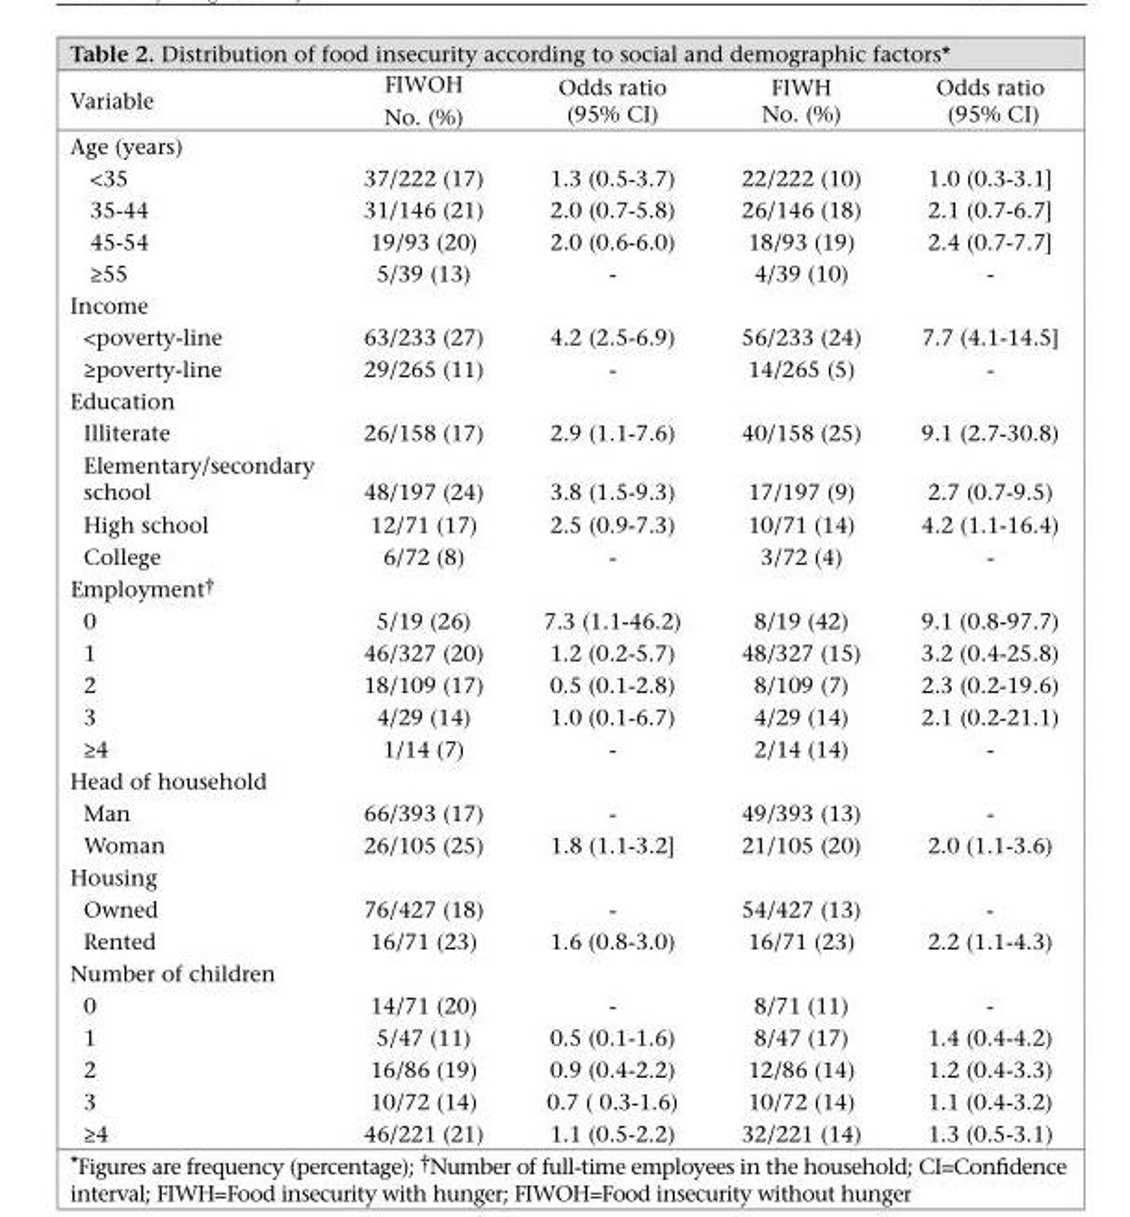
<table><thead><tr><td>Variable</td><td>FIWOH No. (%)</td><td>Odds ratio (95% CI)</td><td>FIWH No. (%)</td><td>Odds ratio (95% CI)</td></tr></thead><tbody><tr><td colspan="5">Age (years)</td></tr><tr><td>&lt;35</td><td>37/222 (17)</td><td>1.3 (0.5-3.7)</td><td>22/222 (10)</td><td>1.0 (0.3-3.1]</td></tr><tr><td>35-44</td><td>31/146 (21)</td><td>2.0 (0.7-5.8)</td><td>26/146 (18)</td><td>2.1 (0.7-6.7]</td></tr><tr><td>45-54</td><td>19/93 (20)</td><td>2.0 (0.6-6.0)</td><td>18/93 (19)</td><td>2.4 (0.7-7.7]</td></tr><tr><td>≥55</td><td>5/39 (13)</td><td>-</td><td>4/39 (10)</td><td>-</td></tr><tr><td colspan="5">Income</td></tr><tr><td>&lt;poverty-line</td><td>63/233 (27)</td><td>4.2 (2.5-6.9)</td><td>56/233 (24)</td><td>7.7 (4.1-14.5]</td></tr><tr><td>≥poverty-line</td><td>29/265 (11)</td><td>-</td><td>14/265 (5)</td><td>-</td></tr><tr><td colspan="5">Education</td></tr><tr><td>Illiterate</td><td>26/158 (17)</td><td>2.9 (1.1-7.6)</td><td>40/158 (25)</td><td>9.1 (2.7-30.8)</td></tr><tr><td>Elementary/secondary school</td><td>48/197 (24)</td><td>3.8 (1.5-9.3)</td><td>17/197 (9)</td><td>2.7 (0.7-9.5)</td></tr><tr><td>High school</td><td>12/71 (17)</td><td>2.5 (0.9-7.3)</td><td>10/71 (14)</td><td>4.2 (1.1-16.4)</td></tr><tr><td>College</td><td>6/72 (8)</td><td>-</td><td>3/72 (4)</td><td>-</td></tr><tr><td colspan="5">Employment†</td></tr><tr><td>0</td><td>5/19 (26)</td><td>7.3 (1.1-46.2)</td><td>8/19 (42)</td><td>9.1 (0.8-97.7)</td></tr><tr><td>1</td><td>46/327 (20)</td><td>1.2 (0.2-5.7)</td><td>48/327 (15)</td><td>3.2 (0.4-25.8)</td></tr><tr><td>2</td><td>18/109 (17)</td><td>0.5 (0.1-2.8)</td><td>8/109 (7)</td><td>2.3 (0.2-19.6)</td></tr><tr><td>3</td><td>4/29 (14)</td><td>1.0 (0.1-6.7)</td><td>4/29 (14)</td><td>2.1 (0.2-21.1)</td></tr><tr><td>≥4</td><td>1/14 (7)</td><td>-</td><td>2/14 (14)</td><td>-</td></tr><tr><td colspan="5">Head of household</td></tr><tr><td>Man</td><td>66/393 (17)</td><td>-</td><td>49/393 (13)</td><td>-</td></tr><tr><td>Woman</td><td>26/105 (25)</td><td>1.8 (1.1-3.2]</td><td>21/105 (20)</td><td>2.0 (1.1-3.6)</td></tr><tr><td colspan="5">Housing</td></tr><tr><td>Owned</td><td>76/427 (18)</td><td>-</td><td>54/427 (13)</td><td>-</td></tr><tr><td>Rented</td><td>16/71 (23)</td><td>1.6 (0.8-3.0)</td><td>16/71 (23)</td><td>2.2 (1.1-4.3)</td></tr><tr><td colspan="5">Number of children</td></tr><tr><td>0</td><td>14/71 (20)</td><td>-</td><td>8/71 (11)</td><td>-</td></tr><tr><td>1</td><td>5/47 (11)</td><td>0.5 (0.1-1.6)</td><td>8/47 (17)</td><td>1.4 (0.4-4.2)</td></tr><tr><td>2</td><td>16/86 (19)</td><td>0.9 (0.4-2.2)</td><td>12/86 (14)</td><td>1.2 (0.4-3.3)</td></tr><tr><td>3</td><td>10/72 (14)</td><td>0.7 ( 0.3-1.6)</td><td>10/72 (14)</td><td>1.1 (0.4-3.2)</td></tr><tr><td>≥4</td><td>46/221 (21)</td><td>1.1 (0.5-2.2)</td><td>32/221 (14)</td><td>1.3 (0.5-3.1)</td></tr></tbody></table>